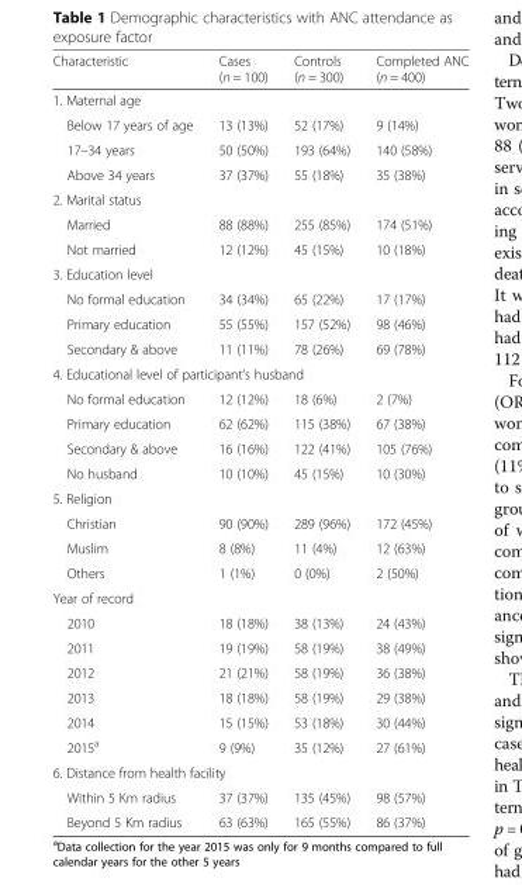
<table><thead><tr><td>Characteristic</td><td>Cases (n = 100)</td><td>Controls (n = 300)</td><td>Completed ANC (n = 400)</td></tr></thead><tbody><tr><td colspan="4">1. Maternal age</td></tr><tr><td>Below 17 years of age</td><td>13 (13%)</td><td>52 (17%)</td><td>9 (14%)</td></tr><tr><td>17–34 years</td><td>50 (50%)</td><td>193 (64%)</td><td>140 (58%)</td></tr><tr><td>Above 34 years</td><td>37 (37%)</td><td>55 (18%)</td><td>35 (38%)</td></tr><tr><td colspan="4">2. Marital status</td></tr><tr><td>Married</td><td>88 (88%)</td><td>255 (85%)</td><td>174 (51%)</td></tr><tr><td>Not married</td><td>12 (12%)</td><td>45 (15%)</td><td>10 (18%)</td></tr><tr><td colspan="4">3. Education level</td></tr><tr><td>No formal education</td><td>34 (34%)</td><td>65 (22%)</td><td>17 (17%)</td></tr><tr><td>Primary education</td><td>55 (55%)</td><td>157 (52%)</td><td>98 (46%)</td></tr><tr><td>Secondary &amp; above</td><td>11 (11%)</td><td>78 (26%)</td><td>69 (78%)</td></tr><tr><td colspan="4">4. Educational level of participant’s husband</td></tr><tr><td>No formal education</td><td>12 (12%)</td><td>18 (6%)</td><td>2 (7%)</td></tr><tr><td>Primary education</td><td>62 (62%)</td><td>115 (38%)</td><td>67 (38%)</td></tr><tr><td>Secondary &amp; above</td><td>16 (16%)</td><td>122 (41%)</td><td>105 (76%)</td></tr><tr><td>No husband</td><td>10 (10%)</td><td>45 (15%)</td><td>10 (30%)</td></tr><tr><td colspan="4">5. Religion</td></tr><tr><td>Christian</td><td>90 (90%)</td><td>289 (96%)</td><td>172 (45%)</td></tr><tr><td>Muslim</td><td>8 (8%)</td><td>11 (4%)</td><td>12 (63%)</td></tr><tr><td>Others</td><td>1 (1%)</td><td>0 (0%)</td><td>2 (50%)</td></tr><tr><td colspan="4">Year of record</td></tr><tr><td>2010</td><td>18 (18%)</td><td>38 (13%)</td><td>24 (43%)</td></tr><tr><td>2011</td><td>19 (19%)</td><td>58 (19%)</td><td>38 (49%)</td></tr><tr><td>2012</td><td>21 (21%)</td><td>58 (19%)</td><td>36 (38%)</td></tr><tr><td>2013</td><td>18 (18%)</td><td>58 (19%)</td><td>29 (38%)</td></tr><tr><td>2014</td><td>15 (15%)</td><td>53 (18%)</td><td>30 (44%)</td></tr><tr><td>2015<sup>a</sup></td><td>9 (9%)</td><td>35 (12%)</td><td>27 (61%)</td></tr><tr><td colspan="4">6. Distance from health facility</td></tr><tr><td>Within 5 Km radius</td><td>37 (37%)</td><td>135 (45%)</td><td>98 (57%)</td></tr><tr><td>Beyond 5 Km radius</td><td>63 (63%)</td><td>165 (55%)</td><td>86 (37%)</td></tr></tbody></table>